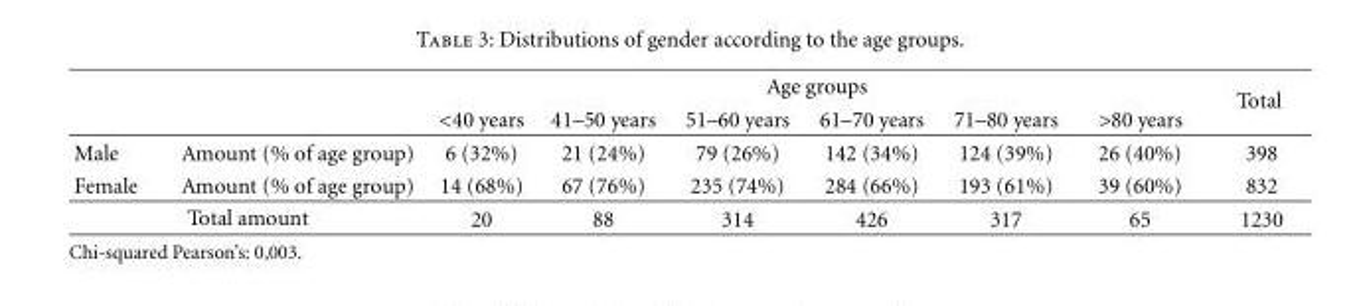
<table><thead><tr><td rowspan="2"></td><td rowspan="2"></td><td colspan="6">Age groups</td><td rowspan="2">Total</td></tr><tr><td>&lt;40 years</td><td>41–50 years</td><td>51–60 years</td><td>61–70 years</td><td>71–80 years</td><td>&gt;80 years</td></tr></thead><tbody><tr><td>Male</td><td>Amount (% of age group)</td><td>6 (32%)</td><td>21 (24%)</td><td>79 (26%)</td><td>142 (34%)</td><td>124 (39%)</td><td>26 (40%)</td><td>398</td></tr><tr><td>Female</td><td>Amount (% of age group)</td><td>14 (68%)</td><td>67 (76%)</td><td>235 (74%)</td><td>284 (66%)</td><td>193 (61%)</td><td>39 (60%)</td><td>832</td></tr><tr><td colspan="2">Total amount</td><td>20</td><td>88</td><td>314</td><td>426</td><td>317</td><td>65</td><td>1230</td></tr></tbody></table>